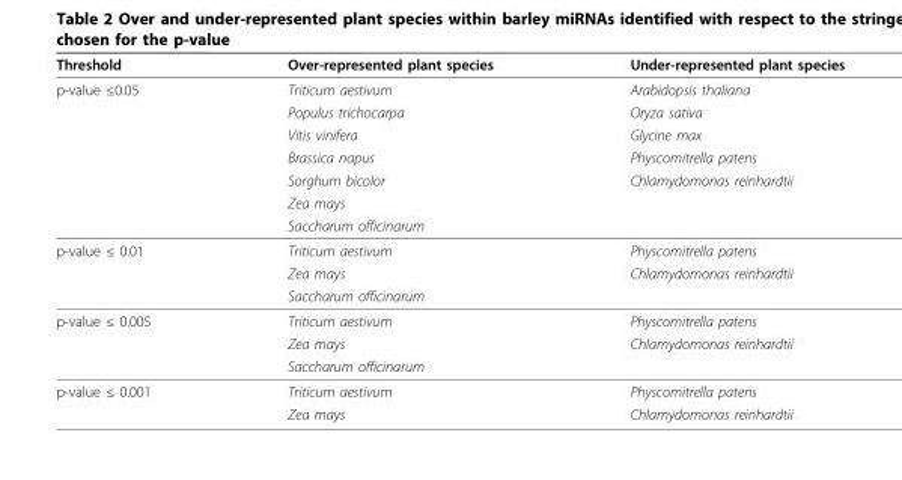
<table><thead><tr><td>Threshold</td><td>Over-represented plant species</td><td>Under-represented plant species</td></tr></thead><tbody><tr><td rowspan="7">p-value ≤0.05</td><td>Triticum aestivum</td><td>Arabidopsis thaliana</td></tr><tr><td>Populus trichocarpa</td><td>Oryza sativa</td></tr><tr><td>Vitis vinifera</td><td>Glycine max</td></tr><tr><td>Brassica napus</td><td>Physcomitrella patens</td></tr><tr><td>Sorghum bicolor</td><td>Chlamydomonas reinhardtii</td></tr><tr><td>Zea mays</td><td></td></tr><tr><td>Saccharum officinarum</td><td></td></tr><tr><td rowspan="3">p-value ≤ 0.01</td><td>Triticum aestivum</td><td>Physcomitrella patens</td></tr><tr><td>Zea mays</td><td>Chlamydomonas reinhardtii</td></tr><tr><td>Saccharum officinarum</td><td></td></tr><tr><td rowspan="3">p-value ≤ 0.005</td><td>Triticum aestivum</td><td>Physcomitrella patens</td></tr><tr><td>Zea mays</td><td>Chlamydomonas reinhardtii</td></tr><tr><td>Saccharum officinarum</td><td></td></tr><tr><td rowspan="2">p-value ≤ 0.001</td><td>Triticum aestivum</td><td>Physcomitrella patens</td></tr><tr><td>Zea mays</td><td>Chlamydomonas reinhardtii</td></tr></tbody></table>